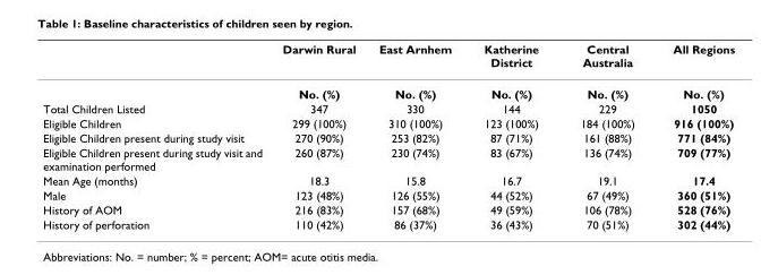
<table><thead><tr><td></td><td>Darwin Rural</td><td>East Arnhem</td><td>Katherine District</td><td>Central Australia</td><td>All Regions</td></tr></thead><tbody><tr><td></td><td>No. (%)</td><td>No. (%)</td><td>No. (%)</td><td>No. (%)</td><td>No. (%)</td></tr><tr><td>Total Children Listed</td><td>347</td><td>330</td><td>144</td><td>229</td><td>1050</td></tr><tr><td>Eligible Children</td><td>299 (100%)</td><td>310 (100%)</td><td>123 (100%)</td><td>184 (100%)</td><td>916 (100%)</td></tr><tr><td>Eligible Children present during study visit</td><td>270 (90%)</td><td>253 (82%)</td><td>87 (71%)</td><td>161 (88%)</td><td>771 (84%)</td></tr><tr><td>Eligible Children present during study visit and examination performed</td><td>260 (87%)</td><td>230 (74%)</td><td>83 (67%)</td><td>136 (74%)</td><td>709 (77%)</td></tr><tr><td>Mean Age (months)</td><td>18.3</td><td>15.8</td><td>16.7</td><td>19.1</td><td>17.4</td></tr><tr><td>Male</td><td>123 (48%)</td><td>126 (55%)</td><td>44 (52%)</td><td>67 (49%)</td><td>360 (51%)</td></tr><tr><td>History of AOM</td><td>216 (83%)</td><td>157 (68%)</td><td>49 (59%)</td><td>106 (78%)</td><td>528 (76%)</td></tr><tr><td>History of perforation</td><td>110 (42%)</td><td>86 (37%)</td><td>36 (43%)</td><td>70 (51%)</td><td>302 (44%)</td></tr></tbody></table>